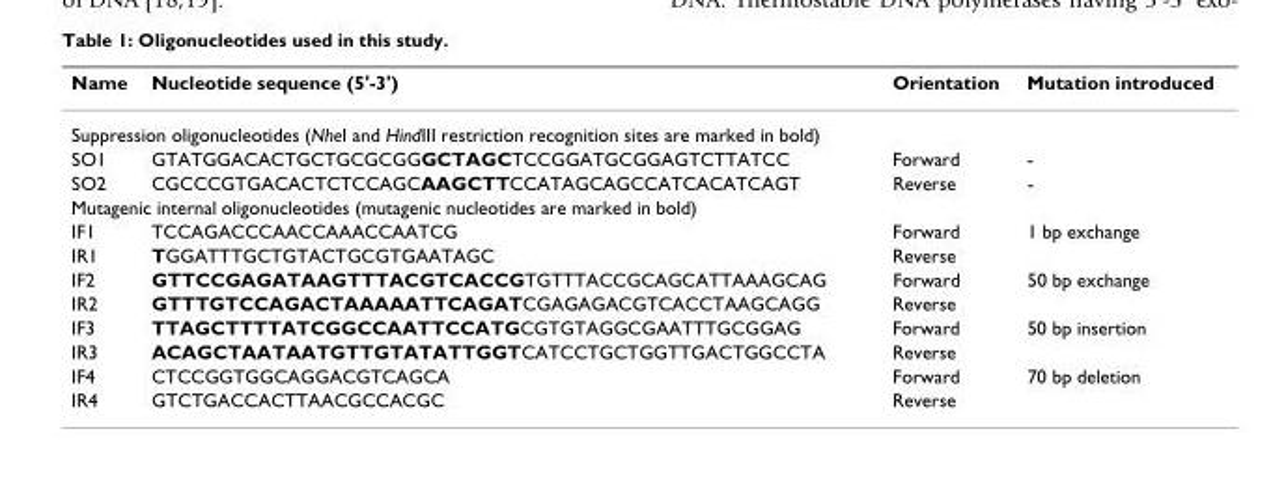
<table><thead><tr><td>Name</td><td>Nucleotide sequence (5&#x27;-3&#x27;)</td><td>Orientation</td><td>Mutation introduced</td></tr></thead><tbody><tr><td colspan="4">Suppression oligonucleotides (NheI and HindIII restriction recognition sites are marked in bold)</td></tr><tr><td>SO1</td><td>GTATGGACACTGCTGCGCGGGCTAGCTCCGGATGCGGAGTCTTATCC</td><td>Forward</td><td>-</td></tr><tr><td>SO2</td><td>CGCCCGTGACACTCTCCAGCAAGCTTCCATAGCAGCCATCACATCAGT</td><td>Reverse</td><td>-</td></tr><tr><td colspan="4">Mutagenic internal oligonucleotides (mutagenic nucleotides are marked in bold)</td></tr><tr><td>IF1</td><td>TCCAGACCCAACCAAACCAATCG</td><td>Forward</td><td>1 bp exchange</td></tr><tr><td>IR1</td><td>TGGATTTGCTGTACTGCGTGAATAGC</td><td>Reverse</td><td></td></tr><tr><td>IF2</td><td>GTTCCGAGATAAGTTTACGTCACCGTGTTTACCGCAGCATTAAAGCAG</td><td>Forward</td><td>50 bp exchange</td></tr><tr><td>IR2</td><td>GTTTGTCCAGACTAAAAATTCAGATCGAGAGACGTCACCTAAGCAGG</td><td>Reverse</td><td></td></tr><tr><td>IF3</td><td>TTAGCTTTTATCGGCCAATTCCATGCGTGTAGGCGAATTTGCGGAG</td><td>Forward</td><td>50 bp insertion</td></tr><tr><td>IR3</td><td>ACAGCTAATAATGTTGTATATTGGTCATCCTGCTGGTTGACTGGCCTA</td><td>Reverse</td><td></td></tr><tr><td>IF4</td><td>CTCCGGTGGCAGGACGTCAGCA</td><td>Forward</td><td>70 bp deletion</td></tr><tr><td>IR4</td><td>GTCTGACCACTTAACGCCACGC</td><td>Reverse</td><td></td></tr></tbody></table>